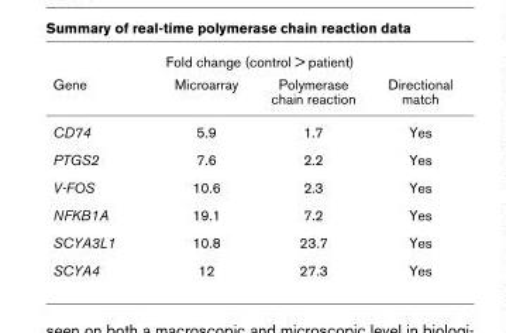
<table><thead><tr><td rowspan="2">Gene</td><td colspan="2">Fold change (control &gt; patient)</td><td rowspan="2">Directional match</td></tr><tr><td>Microarray</td><td>Polymerase chain reaction</td></tr></thead><tbody><tr><td>CD74</td><td>5.9</td><td>1.7</td><td>Yes</td></tr><tr><td>PTGS2</td><td>7.6</td><td>2.2</td><td>Yes</td></tr><tr><td>V-FOS</td><td>10.6</td><td>2.3</td><td>Yes</td></tr><tr><td>NFKB1A</td><td>19.1</td><td>7.2</td><td>Yes</td></tr><tr><td>SCYA3L1</td><td>10.8</td><td>23.7</td><td>Yes</td></tr><tr><td>SCYA4</td><td>12</td><td>27.3</td><td>Yes</td></tr></tbody></table>